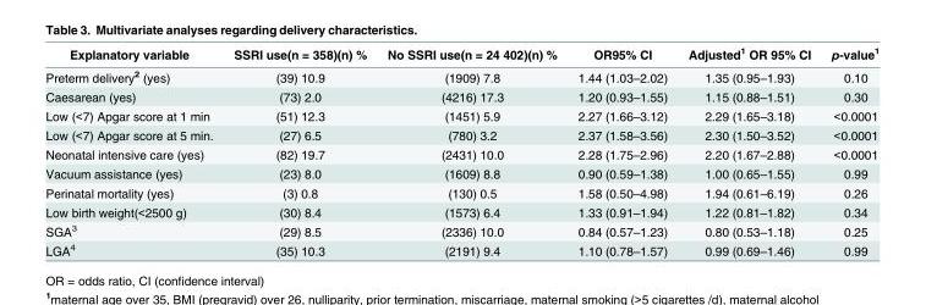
<table><thead><tr><td>Explanatory variable</td><td>SSRI use(n = 358)(n) %</td><td>No SSRI use(n = 24 402)(n) %</td><td>OR95% CI</td><td>Adjusted<sup>1</sup> OR 95% CI</td><td>p-value<sup>1</sup></td></tr></thead><tbody><tr><td>Preterm delivery<sup>2</sup> (yes)</td><td>(39) 10.9</td><td>(1909) 7.8</td><td>1.44 (1.03–2.02)</td><td>1.35 (0.95–1.93)</td><td>0.10</td></tr><tr><td>Caesarean (yes)</td><td>(73) 2.0</td><td>(4216) 17.3</td><td>1.20 (0.93–1.55)</td><td>1.15 (0.88–1.51)</td><td>0.30</td></tr><tr><td>Low (&lt;7) Apgar score at 1 min</td><td>(51) 12.3</td><td>(1451) 5.9</td><td>2.27 (1.66–3.12)</td><td>2.29 (1.65–3.18)</td><td>&lt;0.0001</td></tr><tr><td>Low (&lt;7) Apgar score at 5 min.</td><td>(27) 6.5</td><td>(780) 3.2</td><td>2.37 (1.58–3.56)</td><td>2.30 (1.50–3.52)</td><td>&lt;0.0001</td></tr><tr><td>Neonatal intensive care (yes)</td><td>(82) 19.7</td><td>(2431) 10.0</td><td>2.28 (1.75–2.96)</td><td>2.20 (1.67–2.88)</td><td>&lt;0.0001</td></tr><tr><td>Vacuum assistance (yes)</td><td>(23) 8.0</td><td>(1609) 8.8</td><td>0.90 (0.59–1.38)</td><td>1.00 (0.65–1.55)</td><td>0.99</td></tr><tr><td>Perinatal mortality (yes)</td><td>(3) 0.8</td><td>(130) 0.5</td><td>1.58 (0.50–4.98)</td><td>1.94 (0.61–6.19)</td><td>0.26</td></tr><tr><td>Low birth weight(&lt;2500 g)</td><td>(30) 8.4</td><td>(1573) 6.4</td><td>1.33 (0.91–1.94)</td><td>1.22 (0.81–1.82)</td><td>0.34</td></tr><tr><td>SGA<sup>3</sup></td><td>(29) 8.5</td><td>(2336) 10.0</td><td>0.84 (0.57–1.23)</td><td>0.80 (0.53–1.18)</td><td>0.25</td></tr><tr><td>LGA<sup>4</sup></td><td>(35) 10.3</td><td>(2191) 9.4</td><td>1.10 (0.78–1.57)</td><td>0.99 (0.69–1.46)</td><td>0.99</td></tr></tbody></table>